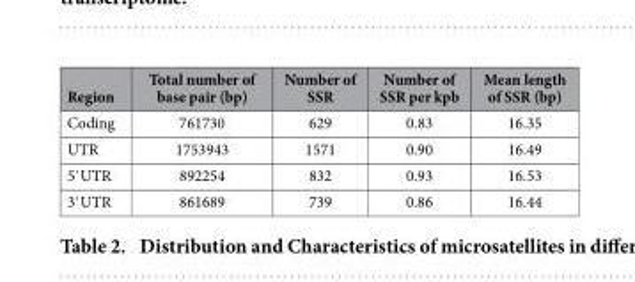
<table><thead><tr><td>Region</td><td>Total number of base pair (bp)</td><td>Number of SSR</td><td>Number of SSR per kpb</td><td>Mean length of SSR (bp)</td></tr></thead><tbody><tr><td>Coding</td><td>761730</td><td>629</td><td>0.83</td><td>16.35</td></tr><tr><td>UTR</td><td>1753943</td><td>1571</td><td>0.90</td><td>16.49</td></tr><tr><td>5′ UTR</td><td>892254</td><td>832</td><td>0.93</td><td>16.53</td></tr><tr><td>3′ UTR</td><td>861689</td><td>739</td><td>0.86</td><td>16.44</td></tr></tbody></table>